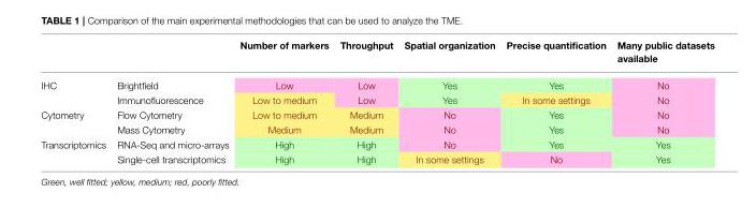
<table><thead><tr><td></td><td></td><td>Number of markers</td><td>Throughput</td><td>Spatial organization</td><td>Precise quantification</td><td>Many public datasets available</td></tr></thead><tbody><tr><td rowspan="2">IHC</td><td>Brightfield</td><td>Low</td><td>Low</td><td>Yes</td><td>Yes</td><td>No</td></tr><tr><td>Immunofluorescence</td><td>Low to medium</td><td>Low</td><td>Yes</td><td>In some settings</td><td>No</td></tr><tr><td rowspan="2">Cytometry</td><td>Flow Cytometry</td><td>Low to medium</td><td>Medium</td><td>No</td><td>Yes</td><td>No</td></tr><tr><td>Mass Cytometry</td><td>Medium</td><td>Medium</td><td>No</td><td>Yes</td><td>No</td></tr><tr><td rowspan="2">Transcriptomics</td><td>RNA-Seq and micro-arrays</td><td>High</td><td>High</td><td>No</td><td>Yes</td><td>Yes</td></tr><tr><td>Single-cell transcriptomics</td><td>High</td><td>High</td><td>In some settings</td><td>No</td><td>Yes</td></tr></tbody></table>